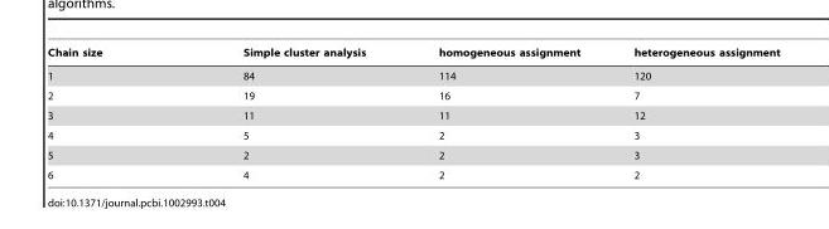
<table><thead><tr><td>Chain size</td><td>Simple cluster analysis</td><td>homogeneous assignment</td><td>heterogeneous assignment</td></tr></thead><tbody><tr><td>1</td><td>84</td><td>114</td><td>120</td></tr><tr><td>2</td><td>19</td><td>16</td><td>7</td></tr><tr><td>3</td><td>11</td><td>11</td><td>12</td></tr><tr><td>4</td><td>5</td><td>2</td><td>3</td></tr><tr><td>5</td><td>2</td><td>2</td><td>3</td></tr><tr><td>6</td><td>4</td><td>2</td><td>2</td></tr></tbody></table>